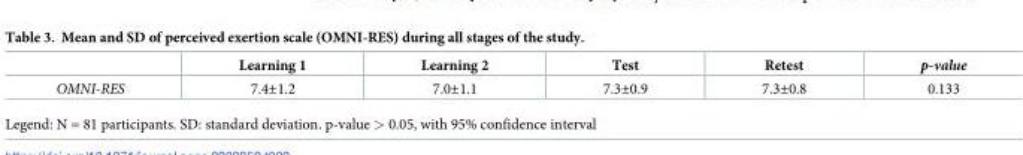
<table><thead><tr><td></td><td>Learning 1</td><td>Learning 2</td><td>Test</td><td>Retest</td><td>p-value</td></tr></thead><tbody><tr><td>OMNI-RES</td><td>7.4±1.2</td><td>7.0±1.1</td><td>7.3±0.9</td><td>7.3±0.8</td><td>0.133</td></tr></tbody></table>